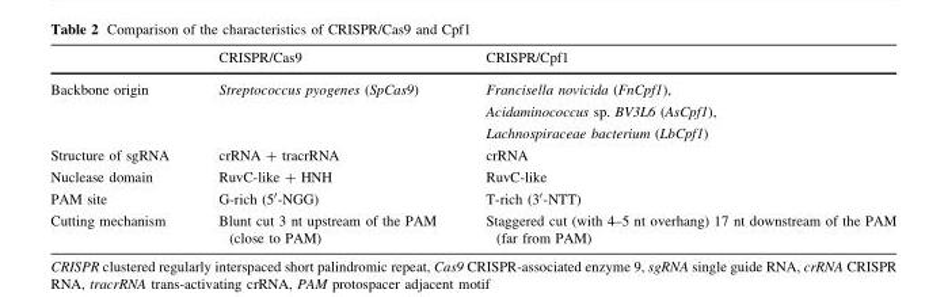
<table><thead><tr><td></td><td>CRISPR/Cas9</td><td>CRISPR/Cpf1</td></tr></thead><tbody><tr><td>Backbone origin</td><td>Streptococcus pyogenes (SpCas9)</td><td>Francisella novicida (FnCpf1), Acidaminococcus sp. BV3L6 (AsCpf1), Lachnospiraceae bacterium (LbCpf1)</td></tr><tr><td>Structure of sgRNA</td><td>crRNA + tracrRNA</td><td>crRNA</td></tr><tr><td>Nuclease domain</td><td>RuvC-like + HNH</td><td>RuvC-like</td></tr><tr><td>PAM site</td><td>G-rich (5′-NGG)</td><td>T-rich (3′-NTT)</td></tr><tr><td>Cutting mechanism</td><td>Blunt cut 3 nt upstream of the PAM (close to PAM)</td><td>Staggered cut (with 4–5 nt overhang) 17 nt downstream of the PAM (far from PAM)</td></tr></tbody></table>